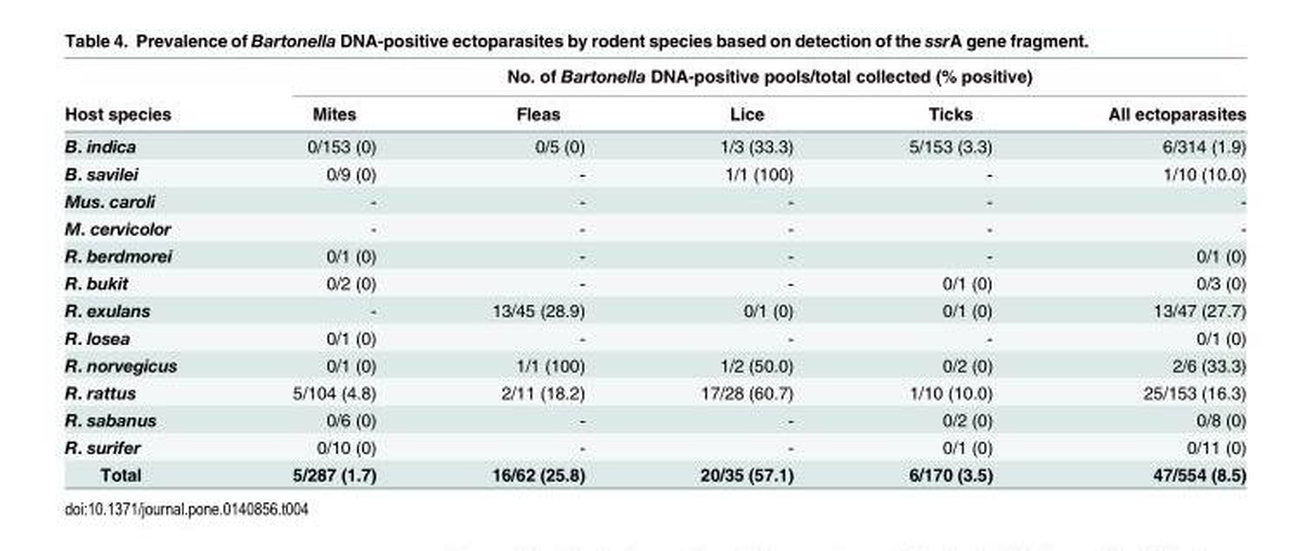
<table><thead><tr><td rowspan="2">Host species</td><td colspan="5">No. of Bartonella DNA-positive pools/total collected (% positive)</td></tr><tr><td>Mites</td><td>Fleas</td><td>Lice</td><td>Ticks</td><td>All ectoparasites</td></tr></thead><tbody><tr><td>B. indica</td><td>0/153 (0)</td><td>0/5 (0)</td><td>1/3 (33.3)</td><td>5/153 (3.3)</td><td>6/314 (1.9)</td></tr><tr><td>B. savilei</td><td>0/9 (0)</td><td>-</td><td>1/1 (100)</td><td>-</td><td>1/10 (10.0)</td></tr><tr><td>Mus. caroli</td><td>-</td><td>-</td><td>-</td><td>-</td><td>-</td></tr><tr><td>M. cervicolor</td><td>-</td><td>-</td><td>-</td><td>-</td><td>-</td></tr><tr><td>R. berdmorei</td><td>0/1 (0)</td><td>-</td><td>-</td><td>-</td><td>0/1 (0)</td></tr><tr><td>R. bukit</td><td>0/2 (0)</td><td>-</td><td>-</td><td>0/1 (0)</td><td>0/3 (0)</td></tr><tr><td>R. exulans</td><td>-</td><td>13/45 (28.9)</td><td>0/1 (0)</td><td>0/1 (0)</td><td>13/47 (27.7)</td></tr><tr><td>R. losea</td><td>0/1 (0)</td><td>-</td><td>-</td><td>-</td><td>0/1 (0)</td></tr><tr><td>R. norvegicus</td><td>0/1 (0)</td><td>1/1 (100)</td><td>1/2 (50.0)</td><td>0/2 (0)</td><td>2/6 (33.3)</td></tr><tr><td>R. rattus</td><td>5/104 (4.8)</td><td>2/11 (18.2)</td><td>17/28 (60.7)</td><td>1/10 (10.0)</td><td>25/153 (16.3)</td></tr><tr><td>R. sabanus</td><td>0/6 (0)</td><td>-</td><td>-</td><td>0/2 (0)</td><td>0/8 (0)</td></tr><tr><td>R. surifer</td><td>0/10 (0)</td><td>-</td><td>-</td><td>0/1 (0)</td><td>0/11 (0)</td></tr><tr><td>Total</td><td>5/287 (1.7)</td><td>16/62 (25.8)</td><td>20/35 (57.1)</td><td>6/170 (3.5)</td><td>47/554 (8.5)</td></tr></tbody></table>